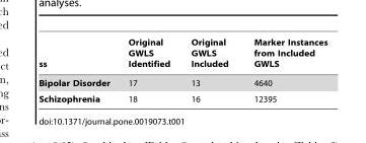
<table><thead><tr><td>ss</td><td>Original GWLS Identified</td><td>Original GWLS Included</td><td>Marker Instances from Included GWLS</td></tr></thead><tbody><tr><td>Bipolar Disorder</td><td>17</td><td>13</td><td>4640</td></tr><tr><td>Schizophrenia</td><td>18</td><td>16</td><td>12395</td></tr></tbody></table>